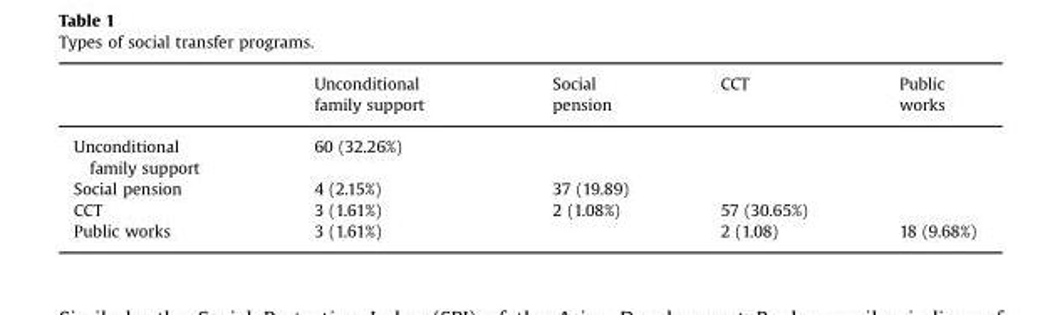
<table><thead><tr><td></td><td>Unconditional family support</td><td>Social pension</td><td>CCT</td><td>Public works</td></tr></thead><tbody><tr><td>Unconditional family support</td><td>60 (32.26%)</td><td></td><td></td><td></td></tr><tr><td>Social pension</td><td>4 (2.15%)</td><td>37 (19.89)</td><td></td><td></td></tr><tr><td>CCT</td><td>3 (1.61%)</td><td>2 (1.08%)</td><td>57 (30.65%)</td><td></td></tr><tr><td>Public works</td><td>3 (1.61%)</td><td></td><td>2 (1.08)</td><td>18 (9.68%)</td></tr></tbody></table>